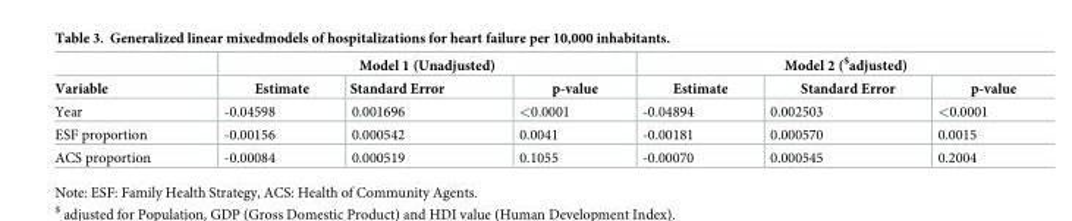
<table><thead><tr><td rowspan="2">Variable</td><td colspan="3">Model 1 (Unadjusted)</td><td colspan="3">Model 2 (<sup>$</sup>adjusted)</td></tr><tr><td>Estimate</td><td>Standard Error</td><td>p-value</td><td>Estimate</td><td>Standard Error</td><td>p-value</td></tr></thead><tbody><tr><td>Year</td><td>-0.04598</td><td>0.001696</td><td>&lt;0.0001</td><td>-0.04894</td><td>0.002503</td><td>&lt;0.0001</td></tr><tr><td>ESF proportion</td><td>-0.00156</td><td>0.000542</td><td>0.0041</td><td>-0.00181</td><td>0.000570</td><td>0.0015</td></tr><tr><td>ACS proportion</td><td>-0.00084</td><td>0.000519</td><td>0.1055</td><td>-0.00070</td><td>0.000545</td><td>0.2004</td></tr></tbody></table>